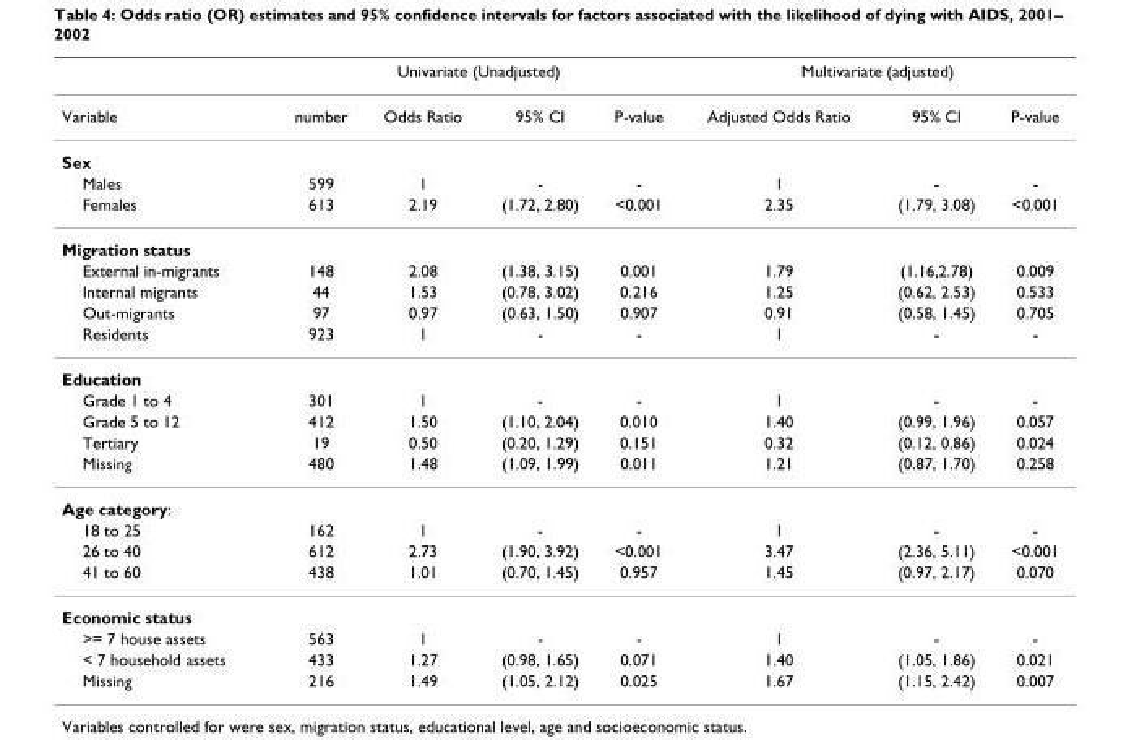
<table><thead><tr><td rowspan="2">Variable</td><td colspan="4">Univariate (Unadjusted)</td><td colspan="3">Multivariate (adjusted)</td></tr><tr><td>number</td><td>Odds Ratio</td><td>95% CI</td><td>P-value</td><td>Adjusted Odds Ratio</td><td>95% CI</td><td>P-value</td></tr></thead><tbody><tr><td colspan="8">Sex</td></tr><tr><td>Males</td><td>599</td><td>1</td><td>-</td><td>-</td><td>1</td><td>-</td><td>-</td></tr><tr><td>Females</td><td>613</td><td>2.19</td><td>(1.72, 2.80)</td><td>&lt;0.001</td><td>2.35</td><td>(1.79, 3.08)</td><td>&lt;0.001</td></tr><tr><td colspan="8">Migration status</td></tr><tr><td>External in-migrants</td><td>148</td><td>2.08</td><td>(1.38, 3.15)</td><td>0.001</td><td>1.79</td><td>(1.16,2.78)</td><td>0.009</td></tr><tr><td>Internal migrants</td><td>44</td><td>1.53</td><td>(0.78, 3.02)</td><td>0.216</td><td>1.25</td><td>(0.62, 2.53)</td><td>0.533</td></tr><tr><td>Out-migrants</td><td>97</td><td>0.97</td><td>(0.63, 1.50)</td><td>0.907</td><td>0.91</td><td>(0.58, 1.45)</td><td>0.705</td></tr><tr><td>Residents</td><td>923</td><td>1</td><td>-</td><td>-</td><td>1</td><td>-</td><td>-</td></tr><tr><td colspan="8">Education</td></tr><tr><td>Grade 1 to 4</td><td>301</td><td>1</td><td>-</td><td>-</td><td>1</td><td>-</td><td>-</td></tr><tr><td>Grade 5 to 12</td><td>412</td><td>1.50</td><td>(1.10, 2.04)</td><td>0.010</td><td>1.40</td><td>(0.99, 1.96)</td><td>0.057</td></tr><tr><td>Tertiary</td><td>19</td><td>0.50</td><td>(0.20, 1.29)</td><td>0.151</td><td>0.32</td><td>(0.12, 0.86)</td><td>0.024</td></tr><tr><td>Missing</td><td>480</td><td>1.48</td><td>(1.09, 1.99)</td><td>0.011</td><td>1.21</td><td>(0.87, 1.70)</td><td>0.258</td></tr><tr><td colspan="8">Age category:</td></tr><tr><td>18 to 25</td><td>162</td><td>1</td><td>-</td><td>-</td><td>1</td><td>-</td><td>-</td></tr><tr><td>26 to 40</td><td>612</td><td>2.73</td><td>(1.90, 3.92)</td><td>&lt;0.001</td><td>3.47</td><td>(2.36, 5.11)</td><td>&lt;0.001</td></tr><tr><td>41 to 60</td><td>438</td><td>1.01</td><td>(0.70, 1.45)</td><td>0.957</td><td>1.45</td><td>(0.97, 2.17)</td><td>0.070</td></tr><tr><td colspan="8">Economic status</td></tr><tr><td>&gt;= 7 house assets</td><td>563</td><td>1</td><td>-</td><td>-</td><td>1</td><td>-</td><td>-</td></tr><tr><td>&lt; 7 household assets</td><td>433</td><td>1.27</td><td>(0.98, 1.65)</td><td>0.071</td><td>1.40</td><td>(1.05, 1.86)</td><td>0.021</td></tr><tr><td>Missing</td><td>216</td><td>1.49</td><td>(1.05, 2.12)</td><td>0.025</td><td>1.67</td><td>(1.15, 2.42)</td><td>0.007</td></tr></tbody></table>